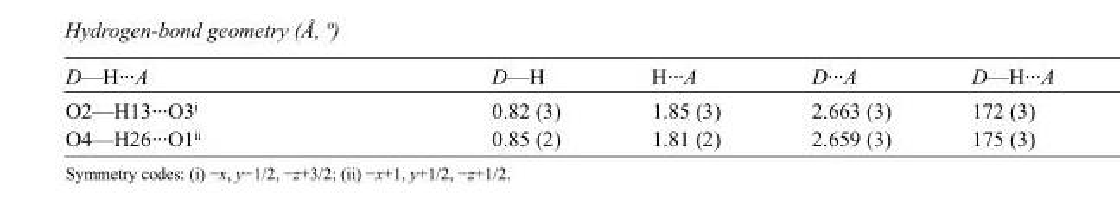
<table><tbody><tr><td>D—H···A</td><td>D—H</td><td>H···A</td><td>D···A</td><td>D—H···A</td></tr><tr><td>O2—H13···O3<sup>i</sup></td><td>0.82 (3)</td><td>1.85 (3)</td><td>2.663 (3)</td><td>172 (3)</td></tr><tr><td>O4—H26···O1<sup>ii</sup></td><td>0.85 (2)</td><td>1.81 (2)</td><td>2.659 (3)</td><td>175 (3)</td></tr></tbody></table>